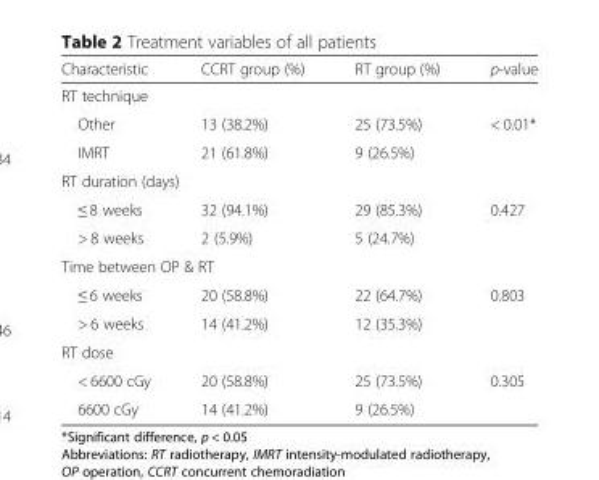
<table><thead><tr><td>Characteristic</td><td>CCRT group (%)</td><td>RT group (%)</td><td>p-value</td></tr></thead><tbody><tr><td colspan="4">RT technique</td></tr><tr><td>Other</td><td>13 (38.2%)</td><td>25 (73.5%)</td><td>&lt; 0.01*</td></tr><tr><td>IMRT</td><td>21 (61.8%)</td><td>9 (26.5%)</td><td></td></tr><tr><td colspan="4">RT duration (days)</td></tr><tr><td>≤ 8 weeks</td><td>32 (94.1%)</td><td>29 (85.3%)</td><td>0.427</td></tr><tr><td>&gt; 8 weeks</td><td>2 (5.9%)</td><td>5 (24.7%)</td><td></td></tr><tr><td colspan="4">Time between OP &amp; RT</td></tr><tr><td>≤ 6 weeks</td><td>20 (58.8%)</td><td>22 (64.7%)</td><td>0.803</td></tr><tr><td>&gt; 6 weeks</td><td>14 (41.2%)</td><td>12 (35.3%)</td><td></td></tr><tr><td colspan="4">RT dose</td></tr><tr><td>&lt; 6600 cGy</td><td>20 (58.8%)</td><td>25 (73.5%)</td><td>0.305</td></tr><tr><td>6600 cGy</td><td>14 (41.2%)</td><td>9 (26.5%)</td><td></td></tr></tbody></table>